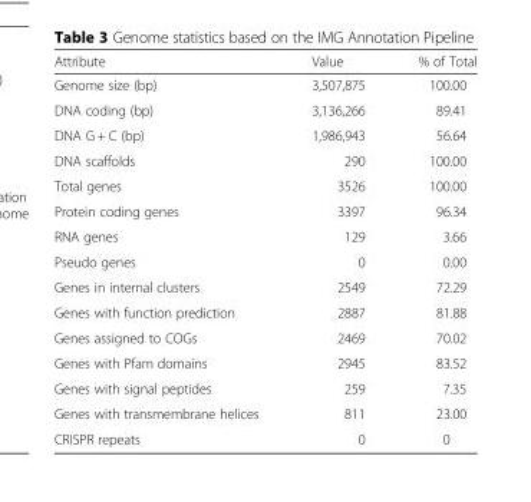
<table><thead><tr><td>Attribute</td><td>Value</td><td>% of Total</td></tr></thead><tbody><tr><td>Genome size (bp)</td><td>3,507,875</td><td>100.00</td></tr><tr><td>DNA coding (bp)</td><td>3,136,266</td><td>89.41</td></tr><tr><td>DNA G + C (bp)</td><td>1,986,943</td><td>56.64</td></tr><tr><td>DNA scaffolds</td><td>290</td><td>100.00</td></tr><tr><td>Total genes</td><td>3526</td><td>100.00</td></tr><tr><td>Protein coding genes</td><td>3397</td><td>96.34</td></tr><tr><td>RNA genes</td><td>129</td><td>3.66</td></tr><tr><td>Pseudo genes</td><td>0</td><td>0.00</td></tr><tr><td>Genes in internal clusters</td><td>2549</td><td>72.29</td></tr><tr><td>Genes with function prediction</td><td>2887</td><td>81.88</td></tr><tr><td>Genes assigned to COGs</td><td>2469</td><td>70.02</td></tr><tr><td>Genes with Pfam domains</td><td>2945</td><td>83.52</td></tr><tr><td>Genes with signal peptides</td><td>259</td><td>7.35</td></tr><tr><td>Genes with transmembrane helices</td><td>811</td><td>23.00</td></tr><tr><td>CRISPR repeats</td><td>0</td><td>0</td></tr></tbody></table>